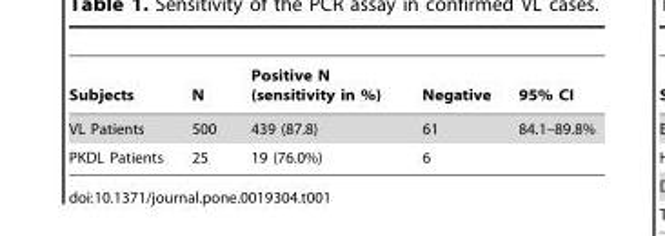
<table><thead><tr><td>Subjects</td><td>N</td><td>Positive N (sensitivity in %)</td><td>Negative</td><td>95% CI</td></tr></thead><tbody><tr><td>VL Patients</td><td>500</td><td>439 (87.8)</td><td>61</td><td>84.1–89.8%</td></tr><tr><td>PKDL Patients</td><td>25</td><td>19 (76.0%)</td><td>6</td><td></td></tr></tbody></table>